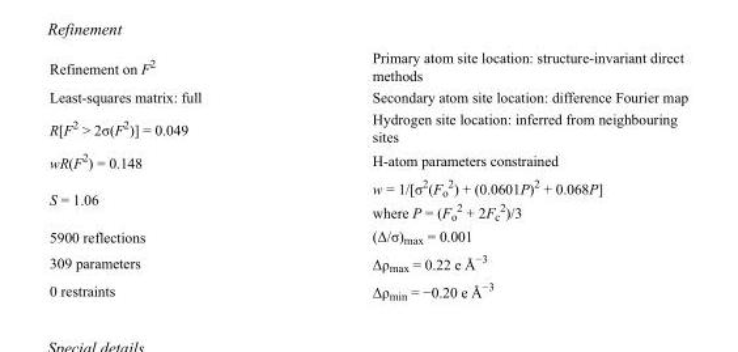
<table><tbody><tr><td>Refinement on F<sup>2</sup></td><td>Primary atom site location: structure-invariant direct methods</td></tr><tr><td>Least-squares matrix: full</td><td>Secondary atom site location: difference Fourier map</td></tr><tr><td>R[F<sup>2</sup> &gt; 2σ(F<sup>2</sup>)] = 0.049</td><td>Hydrogen site location: inferred from neighbouring sites</td></tr><tr><td>wR(F<sup>2</sup>) = 0.148</td><td>H-atom parameters constrained</td></tr><tr><td>S = 1.06</td><td>w = 1/[σ<sup>2</sup>(F<sub>o</sub> <sup>2</sup>) + (0.0601P)<sup>2</sup> + 0.068P] where P = (F<sub>o</sub> <sup>2</sup> + 2F<sub>c</sub> <sup>2</sup>)/3</td></tr><tr><td>5900 reflections</td><td>(Δ/σ)<sub>max</sub> = 0.001</td></tr><tr><td>309 parameters</td><td>Δρ<sub>max</sub> = 0.22 e Å<sup>−3</sup></td></tr><tr><td>0 restraints</td><td>Δρmin = −0.20 e Å−3</td></tr></tbody></table>